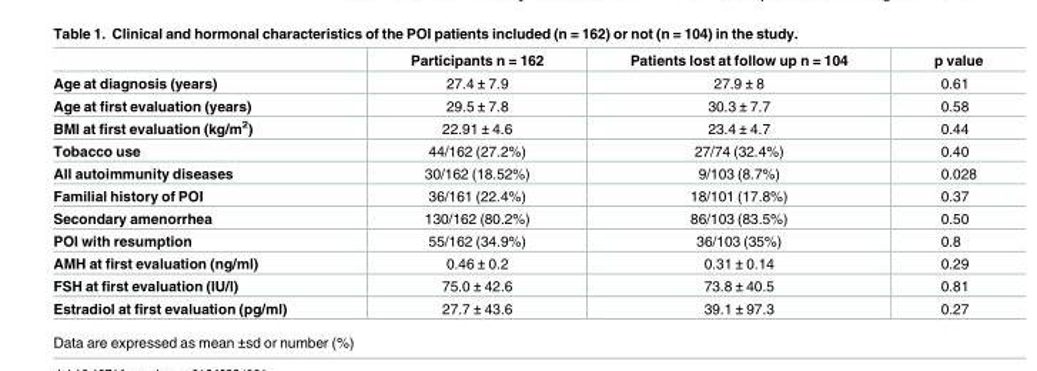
<table><thead><tr><td></td><td>Participants n = 162</td><td>Patients lost at follow up n = 104</td><td>p value</td></tr></thead><tbody><tr><td>Age at diagnosis (years)</td><td>27.4 ± 7.9</td><td>27.9 ± 8</td><td>0.61</td></tr><tr><td>Age at first evaluation (years)</td><td>29.5 ± 7.8</td><td>30.3 ± 7.7</td><td>0.58</td></tr><tr><td>BMI at first evaluation (kg/m<sup>2</sup>)</td><td>22.91 ± 4.6</td><td>23.4 ± 4.7</td><td>0.44</td></tr><tr><td>Tobacco use</td><td>44/162 (27.2%)</td><td>27/74 (32.4%)</td><td>0.40</td></tr><tr><td>All autoimmunity diseases</td><td>30/162 (18.52%)</td><td>9/103 (8.7%)</td><td>0.028</td></tr><tr><td>Familial history of POI</td><td>36/161 (22.4%)</td><td>18/101 (17.8%)</td><td>0.37</td></tr><tr><td>Secondary amenorrhea</td><td>130/162 (80.2%)</td><td>86/103 (83.5%)</td><td>0.50</td></tr><tr><td>POI with resumption</td><td>55/162 (34.9%)</td><td>36/103 (35%)</td><td>0.8</td></tr><tr><td>AMH at first evaluation (ng/ml)</td><td>0.46 ± 0.2</td><td>0.31 ± 0.14</td><td>0.29</td></tr><tr><td>FSH at first evaluation (IU/l)</td><td>75.0 ± 42.6</td><td>73.8 ± 40.5</td><td>0.81</td></tr><tr><td>Estradiol at first evaluation (pg/ml)</td><td>27.7 ± 43.6</td><td>39.1 ± 97.3</td><td>0.27</td></tr></tbody></table>